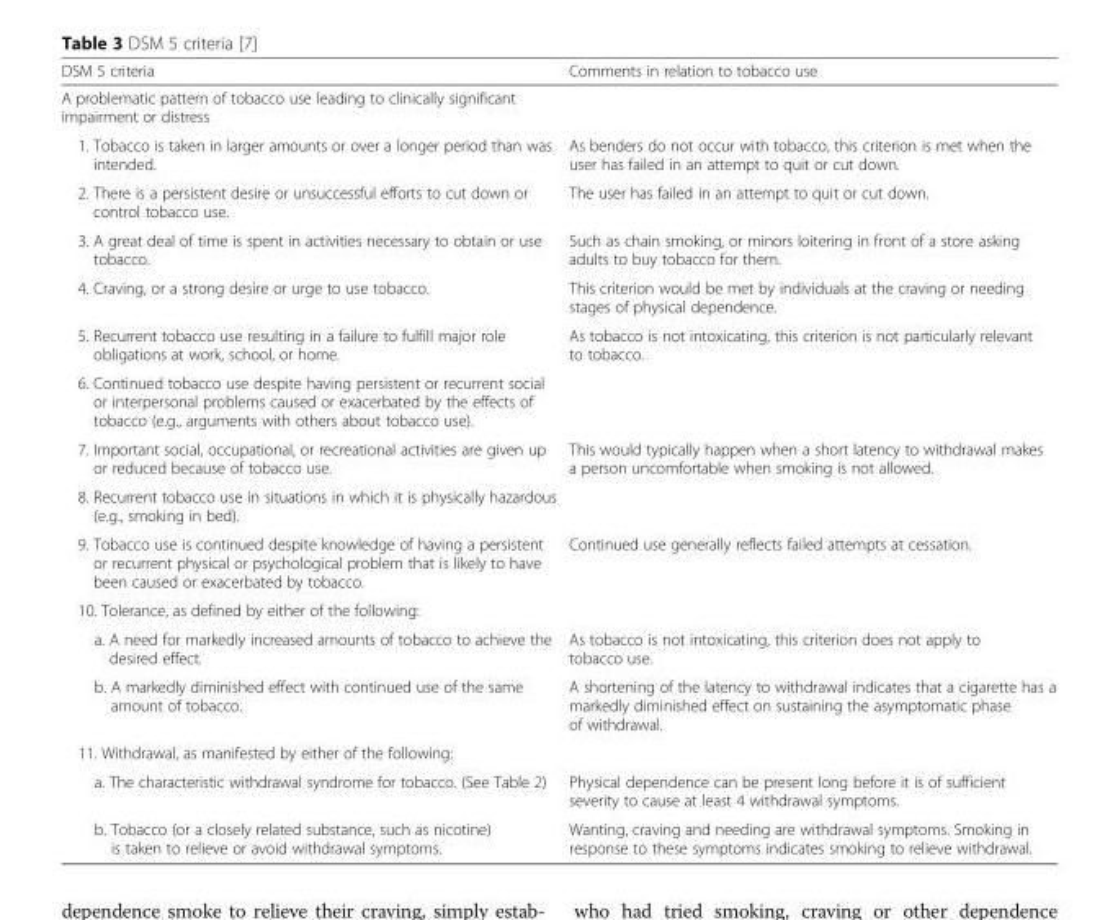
<table><thead><tr><td>DSM 5 criteria</td><td>Comments in relation to tobacco use</td></tr></thead><tbody><tr><td colspan="2">A problematic pattern of tobacco use leading to clinically significant impairment or distress</td></tr><tr><td>1. Tobacco is taken in larger amounts or over a longer period than was intended.</td><td>As benders do not occur with tobacco, this criterion is met when the user has failed in an attempt to quit or cut down.</td></tr><tr><td>2. There is a persistent desire or unsuccessful efforts to cut down or control tobacco use.</td><td>The user has failed in an attempt to quit or cut down.</td></tr><tr><td>3. A great deal of time is spent in activities necessary to obtain or use tobacco.</td><td>Such as chain smoking, or minors loitering in front of a store asking adults to buy tobacco for them.</td></tr><tr><td>4. Craving, or a strong desire or urge to use tobacco.</td><td>This criterion would be met by individuals at the craving or needing stages of physical dependence.</td></tr><tr><td>5. Recurrent tobacco use resulting in a failure to fulfill major role obligations at work, school, or home.</td><td>As tobacco is not intoxicating, this criterion is not particularly relevant to tobacco.</td></tr><tr><td colspan="2">6. Continued tobacco use despite having persistent or recurrent social or interpersonal problems caused or exacerbated by the effects of tobacco (e.g., arguments with others about tobacco use).</td></tr><tr><td>7. Important social, occupational, or recreational activities are given up or reduced because of tobacco use.</td><td>This would typically happen when a short latency to withdrawal makes a person uncomfortable when smoking is not allowed.</td></tr><tr><td colspan="2">8. Recurrent tobacco use in situations in which it is physically hazardous (e.g., smoking in bed).</td></tr><tr><td>9. Tobacco use is continued despite knowledge of having a persistent or recurrent physical or psychological problem that is likely to have been caused or exacerbated by tobacco.</td><td>Continued use generally reflects failed attempts at cessation.</td></tr><tr><td colspan="2">10. Tolerance, as defined by either of the following:</td></tr><tr><td>a. A need for markedly increased amounts of tobacco to achieve the desired effect.</td><td>As tobacco is not intoxicating, this criterion does not apply to tobacco use.</td></tr><tr><td>b. A markedly diminished effect with continued use of the same amount of tobacco.</td><td>A shortening of the latency to withdrawal indicates that a cigarette has a markedly diminished effect on sustaining the asymptomatic phase of withdrawal.</td></tr><tr><td colspan="2">11. Withdrawal, as manifested by either of the following:</td></tr><tr><td>a. The characteristic withdrawal syndrome for tobacco. (See Table 2)</td><td>Physical dependence can be present long before it is of sufficient severity to cause at least 4 withdrawal symptoms.</td></tr><tr><td>b. Tobacco (or a closely related substance, such as nicotine) is taken to relieve or avoid withdrawal symptoms.</td><td>Wanting, craving and needing are withdrawal symptoms. Smoking in response to these symptoms indicates smoking to relieve withdrawal.</td></tr></tbody></table>